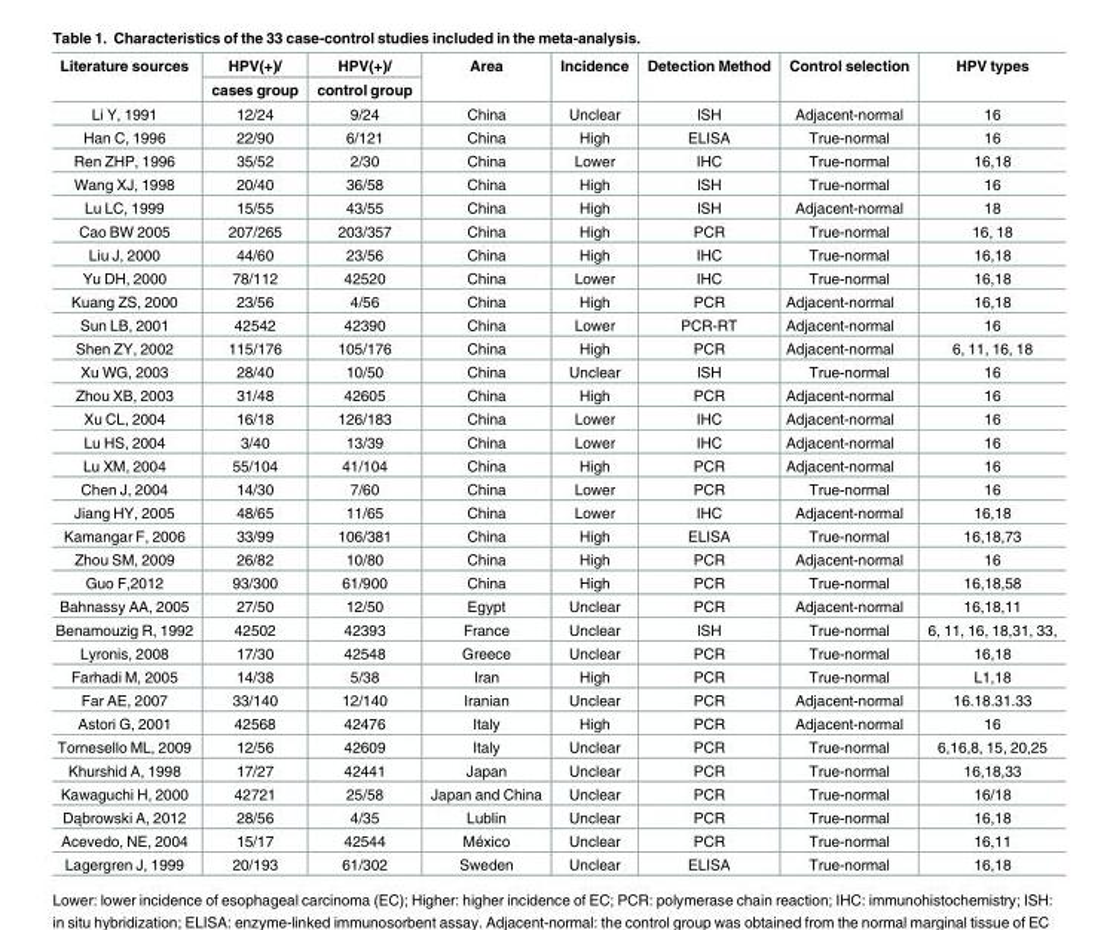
<table><thead><tr><td rowspan="2">Literature sources</td><td rowspan="2">HPV(+)/ cases group</td><td rowspan="2">HPV(+)/ control group</td><td rowspan="2">Area</td><td rowspan="2">Incidence</td><td rowspan="2">Detection Method</td><td rowspan="2">Control selection</td><td rowspan="2">HPV types</td></tr><tr></tr></thead><tbody><tr><td>Li Y, 1991</td><td>12/24</td><td>9/24</td><td>China</td><td>Unclear</td><td>ISH</td><td>Adjacent-normal</td><td>16</td></tr><tr><td>Han C, 1996</td><td>22/90</td><td>6/121</td><td>China</td><td>High</td><td>ELISA</td><td>True-normal</td><td>16</td></tr><tr><td>Ren ZHP, 1996</td><td>35/52</td><td>2/30</td><td>China</td><td>Lower</td><td>IHC</td><td>True-normal</td><td>16,18</td></tr><tr><td>Wang XJ, 1998</td><td>20/40</td><td>36/58</td><td>China</td><td>High</td><td>ISH</td><td>True-normal</td><td>16</td></tr><tr><td>Lu LC, 1999</td><td>15/55</td><td>43/55</td><td>China</td><td>High</td><td>ISH</td><td>Adjacent-normal</td><td>18</td></tr><tr><td>Cao BW 2005</td><td>207/265</td><td>203/357</td><td>China</td><td>High</td><td>PCR</td><td>True-normal</td><td>16, 18</td></tr><tr><td>Liu J, 2000</td><td>44/60</td><td>23/56</td><td>China</td><td>High</td><td>IHC</td><td>True-normal</td><td>16,18</td></tr><tr><td>Yu DH, 2000</td><td>78/112</td><td>42520</td><td>China</td><td>Lower</td><td>IHC</td><td>True-normal</td><td>16,18</td></tr><tr><td>Kuang ZS, 2000</td><td>23/56</td><td>4/56</td><td>China</td><td>High</td><td>PCR</td><td>Adjacent-normal</td><td>16,18</td></tr><tr><td>Sun LB, 2001</td><td>42542</td><td>42390</td><td>China</td><td>Lower</td><td>PCR-RT</td><td>Adjacent-normal</td><td>16</td></tr><tr><td>Shen ZY, 2002</td><td>115/176</td><td>105/176</td><td>China</td><td>High</td><td>PCR</td><td>Adjacent-normal</td><td>6, 11, 16, 18</td></tr><tr><td>Xu WG, 2003</td><td>28/40</td><td>10/50</td><td>China</td><td>Unclear</td><td>ISH</td><td>True-normal</td><td>16</td></tr><tr><td>Zhou XB, 2003</td><td>31/48</td><td>42605</td><td>China</td><td>High</td><td>PCR</td><td>Adjacent-normal</td><td>16</td></tr><tr><td>Xu CL, 2004</td><td>16/18</td><td>126/183</td><td>China</td><td>Lower</td><td>IHC</td><td>Adjacent-normal</td><td>16</td></tr><tr><td>Lu HS, 2004</td><td>3/40</td><td>13/39</td><td>China</td><td>Lower</td><td>IHC</td><td>Adjacent-normal</td><td>16</td></tr><tr><td>Lu XM, 2004</td><td>55/104</td><td>41/104</td><td>China</td><td>High</td><td>PCR</td><td>Adjacent-normal</td><td>16</td></tr><tr><td>Chen J, 2004</td><td>14/30</td><td>7/60</td><td>China</td><td>Lower</td><td>PCR</td><td>True-normal</td><td>16</td></tr><tr><td>Jiang HY, 2005</td><td>48/65</td><td>11/65</td><td>China</td><td>Lower</td><td>IHC</td><td>Adjacent-normal</td><td>16,18</td></tr><tr><td>Kamangar F, 2006</td><td>33/99</td><td>106/381</td><td>China</td><td>High</td><td>ELISA</td><td>True-normal</td><td>16,18,73</td></tr><tr><td>Zhou SM, 2009</td><td>26/82</td><td>10/80</td><td>China</td><td>High</td><td>PCR</td><td>Adjacent-normal</td><td>16</td></tr><tr><td>Guo F,2012</td><td>93/300</td><td>61/900</td><td>China</td><td>High</td><td>PCR</td><td>True-normal</td><td>16,18,58</td></tr><tr><td>Bahnassy AA, 2005</td><td>27/50</td><td>12/50</td><td>Egypt</td><td>Unclear</td><td>PCR</td><td>Adjacent-normal</td><td>16,18,11</td></tr><tr><td>Benamouzig R, 1992</td><td>42502</td><td>42393</td><td>France</td><td>Unclear</td><td>ISH</td><td>True-normal</td><td>6, 11, 16, 18,31, 33,</td></tr><tr><td>Lyronis, 2008</td><td>17/30</td><td>42548</td><td>Greece</td><td>Unclear</td><td>PCR</td><td>True-normal</td><td>16,18</td></tr><tr><td>Farhadi M, 2005</td><td>14/38</td><td>5/38</td><td>Iran</td><td>High</td><td>PCR</td><td>True-normal</td><td>L1,18</td></tr><tr><td>Far AE, 2007</td><td>33/140</td><td>12/140</td><td>Iranian</td><td>Unclear</td><td>PCR</td><td>Adjacent-normal</td><td>16.18.31.33</td></tr><tr><td>Astori G, 2001</td><td>42568</td><td>42476</td><td>Italy</td><td>High</td><td>PCR</td><td>Adjacent-normal</td><td>16</td></tr><tr><td>Tornesello ML, 2009</td><td>12/56</td><td>42609</td><td>Italy</td><td>Unclear</td><td>PCR</td><td>True-normal</td><td>6,16,8, 15, 20,25</td></tr><tr><td>Khurshid A, 1998</td><td>17/27</td><td>42441</td><td>Japan</td><td>Unclear</td><td>PCR</td><td>True-normal</td><td>16,18,33</td></tr><tr><td>Kawaguchi H, 2000</td><td>42721</td><td>25/58</td><td>Japan and China</td><td>Unclear</td><td>PCR</td><td>True-normal</td><td>16/18</td></tr><tr><td>Dąbrowski A, 2012</td><td>28/56</td><td>4/35</td><td>Lublin</td><td>Unclear</td><td>PCR</td><td>True-normal</td><td>16,18</td></tr><tr><td>Acevedo, NE, 2004</td><td>15/17</td><td>42544</td><td>México</td><td>Unclear</td><td>PCR</td><td>True-normal</td><td>16,11</td></tr><tr><td>Lagergren J, 1999</td><td>20/193</td><td>61/302</td><td>Sweden</td><td>Unclear</td><td>ELISA</td><td>True-normal</td><td>16,18</td></tr></tbody></table>